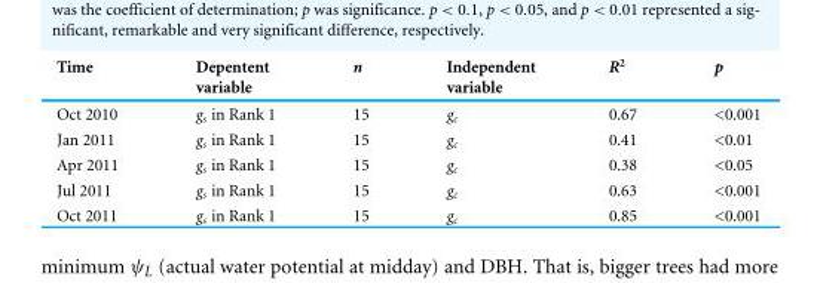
<table><thead><tr><td>Time</td><td>Depentent variable</td><td>n</td><td>Independent variable</td><td>R<sup>2</sup></td><td>p</td></tr></thead><tbody><tr><td>Oct 2010</td><td>g<sub>s</sub> in Rank 1</td><td>15</td><td>g<sub>c</sub></td><td>0.67</td><td>&lt;0.001</td></tr><tr><td>Jan 2011</td><td>g<sub>s</sub> in Rank 1</td><td>15</td><td>g<sub>c</sub></td><td>0.41</td><td>&lt;0.01</td></tr><tr><td>Apr 2011</td><td>g<sub>s</sub> in Rank 1</td><td>15</td><td>g<sub>c</sub></td><td>0.38</td><td>&lt;0.05</td></tr><tr><td>Jul 2011</td><td>g<sub>s</sub> in Rank 1</td><td>15</td><td>g<sub>c</sub></td><td>0.63</td><td>&lt;0.001</td></tr><tr><td>Oct 2011</td><td>g<sub>s</sub> in Rank 1</td><td>15</td><td>g<sub>c</sub></td><td>0.85</td><td>&lt;0.001</td></tr></tbody></table>